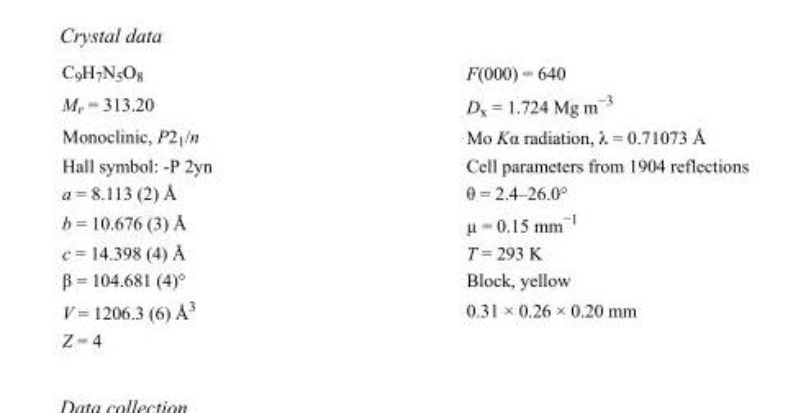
<table><tbody><tr><td>C<sub>9</sub>H<sub>7</sub>N<sub>5</sub>O<sub>8</sub></td><td>F(000) = 640</td></tr><tr><td>M<sub>r</sub> = 313.20</td><td>D<sub>x</sub> = 1.724 Mg m<sup>−3</sup></td></tr><tr><td>Monoclinic, P2<sub>1</sub>/n</td><td>Mo Kα radiation, λ = 0.71073 Å</td></tr><tr><td>Hall symbol: -P 2yn</td><td>Cell parameters from 1904 reflections</td></tr><tr><td>a = 8.113 (2) Å</td><td>θ = 2.4–26.0°</td></tr><tr><td>b = 10.676 (3) Å</td><td>µ = 0.15 mm<sup>−1</sup></td></tr><tr><td>c = 14.398 (4) Å</td><td>T = 293 K</td></tr><tr><td>β = 104.681 (4)°</td><td>Block, yellow</td></tr><tr><td>V = 1206.3 (6) Å<sup>3</sup></td><td>0.31 × 0.26 × 0.20 mm</td></tr><tr><td>Z = 4</td><td></td></tr></tbody></table>